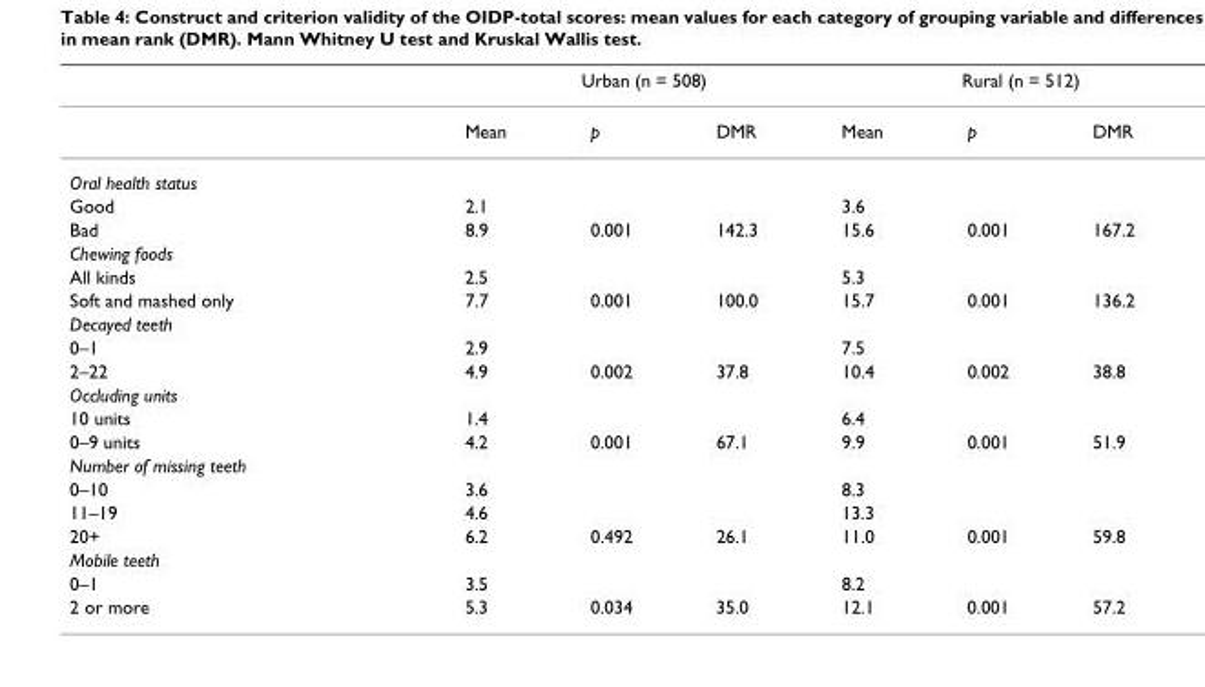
<table><thead><tr><td rowspan="2"></td><td colspan="3">Urban (n = 508)</td><td colspan="3">Rural (n = 512)</td></tr><tr><td>Mean</td><td>p</td><td>DMR</td><td>Mean</td><td>p</td><td>DMR</td></tr></thead><tbody><tr><td colspan="7">Oral health status</td></tr><tr><td>Good</td><td>2.1</td><td></td><td></td><td>3.6</td><td></td><td></td></tr><tr><td>Bad</td><td>8.9</td><td>0.001</td><td>142.3</td><td>15.6</td><td>0.001</td><td>167.2</td></tr><tr><td colspan="7">Chewing foods</td></tr><tr><td>All kinds</td><td>2.5</td><td></td><td></td><td>5.3</td><td></td><td></td></tr><tr><td>Soft and mashed only</td><td>7.7</td><td>0.001</td><td>100.0</td><td>15.7</td><td>0.001</td><td>136.2</td></tr><tr><td colspan="7">Decayed teeth</td></tr><tr><td>0–1</td><td>2.9</td><td></td><td></td><td>7.5</td><td></td><td></td></tr><tr><td>2–22</td><td>4.9</td><td>0.002</td><td>37.8</td><td>10.4</td><td>0.002</td><td>38.8</td></tr><tr><td colspan="7">Occluding units</td></tr><tr><td>10 units</td><td>1.4</td><td></td><td></td><td>6.4</td><td></td><td></td></tr><tr><td>0–9 units</td><td>4.2</td><td>0.001</td><td>67.1</td><td>9.9</td><td>0.001</td><td>51.9</td></tr><tr><td colspan="7">Number of missing teeth</td></tr><tr><td>0–10</td><td>3.6</td><td></td><td></td><td>8.3</td><td></td><td></td></tr><tr><td>11–19</td><td>4.6</td><td></td><td></td><td>13.3</td><td></td><td></td></tr><tr><td>20+</td><td>6.2</td><td>0.492</td><td>26.1</td><td>11.0</td><td>0.001</td><td>59.8</td></tr><tr><td colspan="7">Mobile teeth</td></tr><tr><td>0–1</td><td>3.5</td><td></td><td></td><td>8.2</td><td></td><td></td></tr><tr><td>2 or more</td><td>5.3</td><td>0.034</td><td>35.0</td><td>12.1</td><td>0.001</td><td>57.2</td></tr></tbody></table>